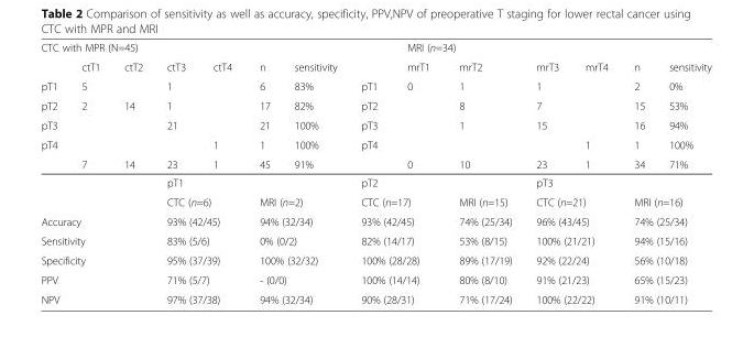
<table><tbody><tr><td colspan="7">CTC with MPR (N=45)</td><td></td><td colspan="6">MRI (n=34)</td></tr><tr><td></td><td>ctT1</td><td>ctT2</td><td>ctT3</td><td>ctT4</td><td>n</td><td>sensitivity</td><td></td><td>mrT1</td><td>mrT2</td><td>mrT3</td><td>mrT4</td><td>n</td><td>sensitivity</td></tr><tr><td>pT1</td><td>5</td><td></td><td>1</td><td></td><td>6</td><td>83%</td><td>pT1</td><td>0</td><td>1</td><td>1</td><td></td><td>2</td><td>0%</td></tr><tr><td>pT2</td><td>2</td><td>14</td><td>1</td><td></td><td>17</td><td>82%</td><td>pT2</td><td></td><td>8</td><td>7</td><td></td><td>15</td><td>53%</td></tr><tr><td>pT3</td><td></td><td></td><td>21</td><td></td><td>21</td><td>100%</td><td>pT3</td><td></td><td>1</td><td>15</td><td></td><td>16</td><td>94%</td></tr><tr><td rowspan="2">pT4</td><td></td><td></td><td></td><td>1</td><td>1</td><td>100%</td><td>pT4</td><td></td><td></td><td></td><td>1</td><td>1</td><td>100%</td></tr><tr><td>7</td><td>14</td><td>23</td><td>1</td><td>45</td><td>91%</td><td></td><td>0</td><td>10</td><td>23</td><td>1</td><td>34</td><td>71%</td></tr><tr><td rowspan="2" colspan="3"></td><td colspan="4">pT1</td><td colspan="3">pT2</td><td colspan="4">pT3</td></tr><tr><td colspan="2">CTC (n=6)</td><td colspan="2">MRI (n=2)</td><td colspan="2">CTC (n=17)</td><td>MRI (n=15)</td><td colspan="2">CTC (n=21)</td><td colspan="2">MRI (n=16)</td></tr><tr><td colspan="3">Accuracy</td><td colspan="2">93% (42/45)</td><td colspan="2">94% (32/34)</td><td colspan="2">93% (42/45)</td><td>74% (25/34)</td><td colspan="2">96% (43/45)</td><td colspan="2">74% (25/34)</td></tr><tr><td colspan="3">Sensitivity</td><td colspan="2">83% (5/6)</td><td colspan="2">0% (0/2)</td><td colspan="2">82% (14/17)</td><td>53% (8/15)</td><td colspan="2">100% (21/21)</td><td colspan="2">94% (15/16)</td></tr><tr><td colspan="3">Specificity</td><td colspan="2">95% (37/39)</td><td colspan="2">100% (32/32)</td><td colspan="2">100% (28/28)</td><td>89% (17/19)</td><td colspan="2">92% (22/24)</td><td colspan="2">56% (10/18)</td></tr><tr><td colspan="3">PPV</td><td colspan="2">71% (5/7)</td><td colspan="2">- (0/0)</td><td colspan="2">100% (14/14)</td><td>80% (8/10)</td><td colspan="2">91% (21/23)</td><td colspan="2">65% (15/23)</td></tr><tr><td colspan="3">NPV</td><td colspan="2">97% (37/38)</td><td colspan="2">94% (32/34)</td><td colspan="2">90% (28/31)</td><td>71% (17/24)</td><td colspan="2">100% (22/22)</td><td colspan="2">91% (10/11)</td></tr></tbody></table>